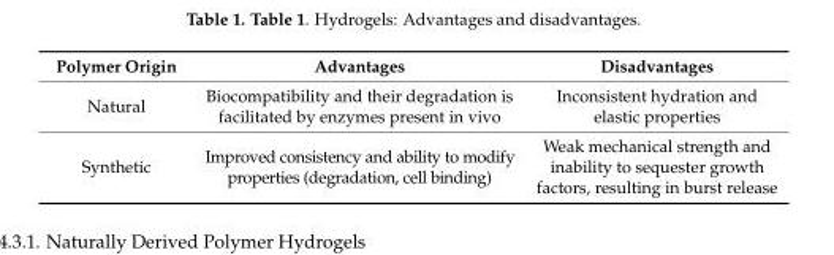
<table><thead><tr><td>Polymer Origin</td><td>Advantages</td><td>Disadvantages</td></tr></thead><tbody><tr><td>Natural</td><td>Biocompatibility and their degradation is facilitated by enzymes present in vivo</td><td>Inconsistent hydration and elastic properties</td></tr><tr><td>Synthetic</td><td>Improved consistency and ability to modify properties (degradation, cell binding)</td><td>Weak mechanical strength and inability to sequester growth factors, resulting in burst release</td></tr></tbody></table>